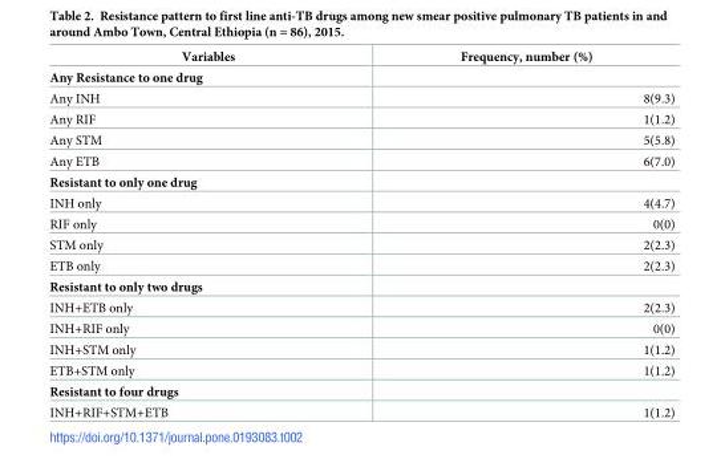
<table><thead><tr><td>Variables</td><td>Frequency, number (%)</td></tr></thead><tbody><tr><td colspan="2">Any Resistance to one drug</td></tr><tr><td>Any INH</td><td>8(9.3)</td></tr><tr><td>Any RIF</td><td>1(1.2)</td></tr><tr><td>Any STM</td><td>5(5.8)</td></tr><tr><td>Any ETB</td><td>6(7.0)</td></tr><tr><td colspan="2">Resistant to only one drug</td></tr><tr><td>INH only</td><td>4(4.7)</td></tr><tr><td>RIF only</td><td>0(0)</td></tr><tr><td>STM only</td><td>2(2.3)</td></tr><tr><td>ETB only</td><td>2(2.3)</td></tr><tr><td colspan="2">Resistant to only two drugs</td></tr><tr><td>INH+ETB only</td><td>2(2.3)</td></tr><tr><td>INH+RIF only</td><td>0(0)</td></tr><tr><td>INH+STM only</td><td>1(1.2)</td></tr><tr><td>ETB+STM only</td><td>1(1.2)</td></tr><tr><td colspan="2">Resistant to four drugs</td></tr><tr><td>INH+RIF+STM+ETB</td><td>1(1.2)</td></tr></tbody></table>